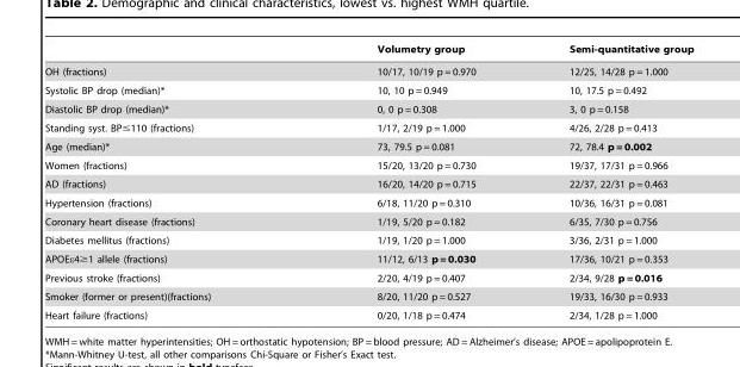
<table><thead><tr><td></td><td>Volumetry group</td><td>Semi-quantitative group</td></tr></thead><tbody><tr><td>OH (fractions)</td><td>10/17, 10/19 p = 0.970</td><td>12/25, 14/28 p = 1.000</td></tr><tr><td>Systolic BP drop (median)*</td><td>10, 10 p = 0.949</td><td>10, 17.5 p = 0.492</td></tr><tr><td>Diastolic BP drop (median)*</td><td>0, 0 p = 0.308</td><td>3, 0 p = 0.158</td></tr><tr><td>Standing syst. BP≤110 (fractions)</td><td>1/17, 2/19 p = 1.000</td><td>4/26, 2/28 p = 0.413</td></tr><tr><td>Age (median)*</td><td>73, 79.5 p = 0.081</td><td>72, 78.4 p = 0.002</td></tr><tr><td>Women (fractions)</td><td>15/20, 13/20 p = 0.730</td><td>19/37, 17/31 p = 0.966</td></tr><tr><td>AD (fractions)</td><td>16/20, 14/20 p = 0.715</td><td>22/37, 22/31 p = 0.463</td></tr><tr><td>Hypertension (fractions)</td><td>6/18, 11/20 p = 0.310</td><td>10/36, 16/31 p = 0.081</td></tr><tr><td>Coronary heart disease (fractions)</td><td>1/19, 5/20 p = 0.182</td><td>6/35, 7/30 p = 0.756</td></tr><tr><td>Diabetes mellitus (fractions)</td><td>1/19, 1/20 p = 1.000</td><td>3/36, 2/31 p = 1.000</td></tr><tr><td>APOEε4≥1 allele (fractions)</td><td>11/12, 6/13 p = 0.030</td><td>17/36, 10/21 p = 0.353</td></tr><tr><td>Previous stroke (fractions)</td><td>2/20, 4/19 p = 0.407</td><td>2/34, 9/28 p = 0.016</td></tr><tr><td>Smoker (former or present)(fractions)</td><td>8/20, 11/20 p = 0.527</td><td>19/33, 16/30 p = 0.933</td></tr><tr><td>Heart failure (fractions)</td><td>0/20, 1/18 p = 0.474</td><td>2/34, 1/28 p = 1.000</td></tr></tbody></table>